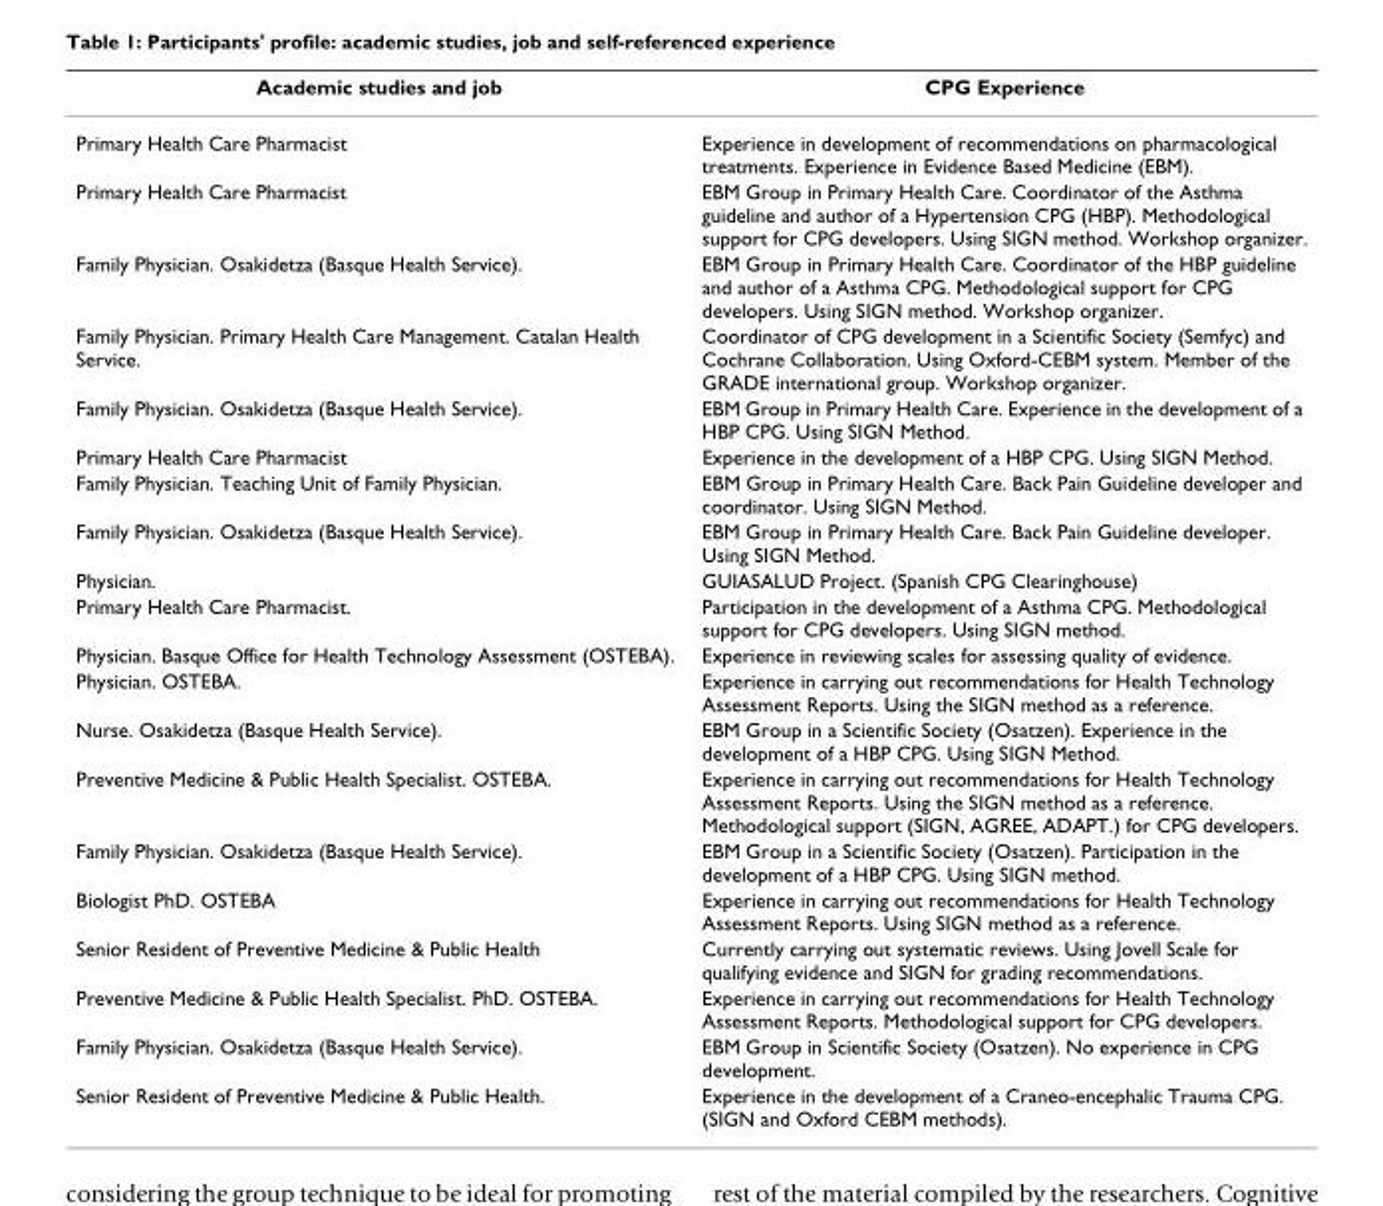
<table><thead><tr><td>Academic studies and job</td><td>CPG Experience</td></tr></thead><tbody><tr><td>Primary Health Care Pharmacist</td><td>Experience in development of recommendations on pharmacological treatments. Experience in Evidence Based Medicine (EBM).</td></tr><tr><td>Primary Health Care Pharmacist</td><td>EBM Group in Primary Health Care. Coordinator of the Asthma guideline and author of a Hypertension CPG (HBP). Methodological support for CPG developers. Using SIGN method. Workshop organizer.</td></tr><tr><td>Family Physician. Osakidetza (Basque Health Service).</td><td>EBM Group in Primary Health Care. Coordinator of the HBP guideline and author of a Asthma CPG. Methodological support for CPG developers. Using SIGN method. Workshop organizer.</td></tr><tr><td>Family Physician. Primary Health Care Management. Catalan Health Service.</td><td>Coordinator of CPG development in a Scientific Society (Semfyc) and Cochrane Collaboration. Using Oxford-CEBM system. Member of the GRADE international group. Workshop organizer.</td></tr><tr><td>Family Physician. Osakidetza (Basque Health Service).</td><td>EBM Group in Primary Health Care. Experience in the development of a HBP CPG. Using SIGN Method.</td></tr><tr><td>Primary Health Care Pharmacist</td><td>Experience in the development of a HBP CPG. Using SIGN Method.</td></tr><tr><td>Family Physician. Teaching Unit of Family Physician.</td><td>EBM Group in Primary Health Care. Back Pain Guideline developer and coordinator. Using SIGN Method.</td></tr><tr><td>Family Physician. Osakidetza (Basque Health Service).</td><td>EBM Group in Primary Health Care. Back Pain Guideline developer. Using SIGN Method.</td></tr><tr><td>Physician.</td><td>GUIASALUD Project. (Spanish CPG Clearinghouse)</td></tr><tr><td>Primary Health Care Pharmacist.</td><td>Participation in the development of a Asthma CPG. Methodological support for CPG developers. Using SIGN method.</td></tr><tr><td>Physician. Basque Office for Health Technology Assessment (OSTEBA).</td><td>Experience in reviewing scales for assessing quality of evidence.</td></tr><tr><td>Physician. OSTEBA.</td><td>Experience in carrying out recommendations for Health Technology Assessment Reports. Using the SIGN method as a reference.</td></tr><tr><td>Nurse. Osakidetza (Basque Health Service).</td><td>EBM Group in a Scientific Society (Osatzen). Experience in the development of a HBP CPG. Using SIGN Method.</td></tr><tr><td>Preventive Medicine &amp; Public Health Specialist. OSTEBA.</td><td>Experience in carrying out recommendations for Health Technology Assessment Reports. Using the SIGN method as a reference. Methodological support (SIGN, AGREE, ADAPT.) for CPG developers.</td></tr><tr><td>Family Physician. Osakidetza (Basque Health Service).</td><td>EBM Group in a Scientific Society (Osatzen). Participation in the development of a HBP CPG. Using SIGN method.</td></tr><tr><td>Biologist PhD. OSTEBA</td><td>Experience in carrying out recommendations for Health Technology Assessment Reports. Using SIGN method as a reference.</td></tr><tr><td>Senior Resident of Preventive Medicine &amp; Public Health</td><td>Currently carrying out systematic reviews. Using Jovell Scale for qualifying evidence and SIGN for grading recommendations.</td></tr><tr><td>Preventive Medicine &amp; Public Health Specialist. PhD. OSTEBA.</td><td>Experience in carrying out recommendations for Health Technology Assessment Reports. Methodological support for CPG developers.</td></tr><tr><td>Family Physician. Osakidetza (Basque Health Service).</td><td>EBM Group in Scientific Society (Osatzen). No experience in CPG development.</td></tr><tr><td>Senior Resident of Preventive Medicine &amp; Public Health.</td><td>Experience in the development of a Craneo-encephalic Trauma CPG. (SIGN and Oxford CEBM methods).</td></tr></tbody></table>